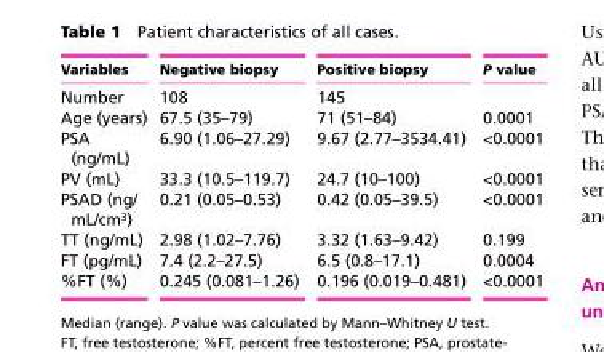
<table><thead><tr><td>Variables</td><td>Negative biopsy</td><td>Positive biopsy</td><td>P value</td></tr></thead><tbody><tr><td>Number</td><td>108</td><td>145</td><td></td></tr><tr><td>Age (years)</td><td>67.5 (35–79)</td><td>71 (51–84)</td><td>0.0001</td></tr><tr><td>PSA (ng/mL)</td><td>6.90 (1.06–27.29)</td><td>9.67 (2.77–3534.41)</td><td>&lt;0.0001</td></tr><tr><td>PV (mL)</td><td>33.3 (10.5–119.7)</td><td>24.7 (10–100)</td><td>&lt;0.0001</td></tr><tr><td>PSAD (ng/ mL/cm<sup>3</sup>)</td><td>0.21 (0.05–0.53)</td><td>0.42 (0.05–39.5)</td><td>&lt;0.0001</td></tr><tr><td>TT (ng/mL)</td><td>2.98 (1.02–7.76)</td><td>3.32 (1.63–9.42)</td><td>0.199</td></tr><tr><td>FT (pg/mL)</td><td>7.4 (2.2–27.5)</td><td>6.5 (0.8–17.1)</td><td>0.0004</td></tr><tr><td>%FT (%)</td><td>0.245 (0.081–1.26)</td><td>0.196 (0.019–0.481)</td><td>&lt;0.0001</td></tr></tbody></table>